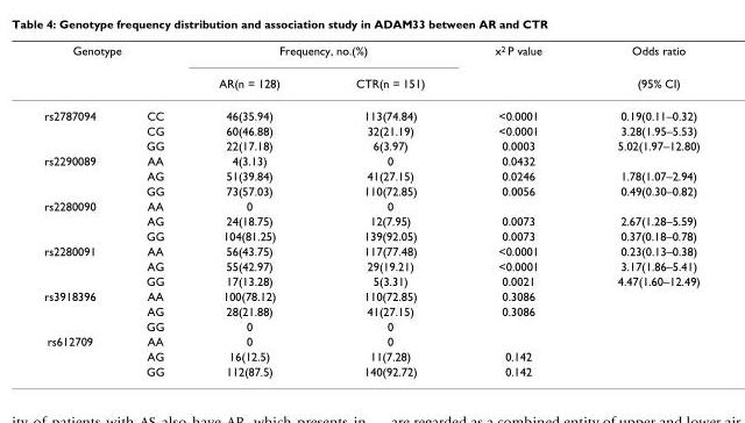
<table><thead><tr><td colspan="2">Genotype</td><td colspan="2">Frequency, no.(%)</td><td rowspan="2">x<sup>2</sup> P value</td><td rowspan="2">Odds ratio (95% CI)</td></tr><tr><td></td><td></td><td>AR(n = 128)</td><td>CTR(n = 151)</td></tr></thead><tbody><tr><td rowspan="3">rs2787094</td><td>CC</td><td>46(35.94)</td><td>113(74.84)</td><td>&lt;0.0001</td><td>0.19(0.11–0.32)</td></tr><tr><td>CG</td><td>60(46.88)</td><td>32(21.19)</td><td>&lt;0.0001</td><td>3.28(1.95–5.53)</td></tr><tr><td>GG</td><td>22(17.18)</td><td>6(3.97)</td><td>0.0003</td><td>5.02(1.97–12.80)</td></tr><tr><td rowspan="3">rs2290089</td><td>AA</td><td>4(3.13)</td><td>0</td><td>0.0432</td><td></td></tr><tr><td>AG</td><td>51(39.84)</td><td>41(27.15)</td><td>0.0246</td><td>1.78(1.07–2.94)</td></tr><tr><td>GG</td><td>73(57.03)</td><td>110(72.85)</td><td>0.0056</td><td>0.49(0.30–0.82)</td></tr><tr><td rowspan="3">rs2280090</td><td>AA</td><td>0</td><td>0</td><td></td><td></td></tr><tr><td>AG</td><td>24(18.75)</td><td>12(7.95)</td><td>0.0073</td><td>2.67(1.28–5.59)</td></tr><tr><td>GG</td><td>104(81.25)</td><td>139(92.05)</td><td>0.0073</td><td>0.37(0.18–0.78)</td></tr><tr><td rowspan="3">rs2280091</td><td>AA</td><td>56(43.75)</td><td>117(77.48)</td><td>&lt;0.0001</td><td>0.23(0.13–0.38)</td></tr><tr><td>AG</td><td>55(42.97)</td><td>29(19.21)</td><td>&lt;0.0001</td><td>3.17(1.86–5.41)</td></tr><tr><td>GG</td><td>17(13.28)</td><td>5(3.31)</td><td>0.0021</td><td>4.47(1.60–12.49)</td></tr><tr><td rowspan="3">rs3918396</td><td>AA</td><td>100(78.12)</td><td>110(72.85)</td><td>0.3086</td><td></td></tr><tr><td>AG</td><td>28(21.88)</td><td>41(27.15)</td><td>0.3086</td><td></td></tr><tr><td>GG</td><td>0</td><td>0</td><td></td><td></td></tr><tr><td rowspan="3">rs612709</td><td>AA</td><td>0</td><td>0</td><td></td><td></td></tr><tr><td>AG</td><td>16(12.5)</td><td>11(7.28)</td><td>0.142</td><td></td></tr><tr><td>GG</td><td>112(87.5)</td><td>140(92.72)</td><td>0.142</td><td></td></tr></tbody></table>